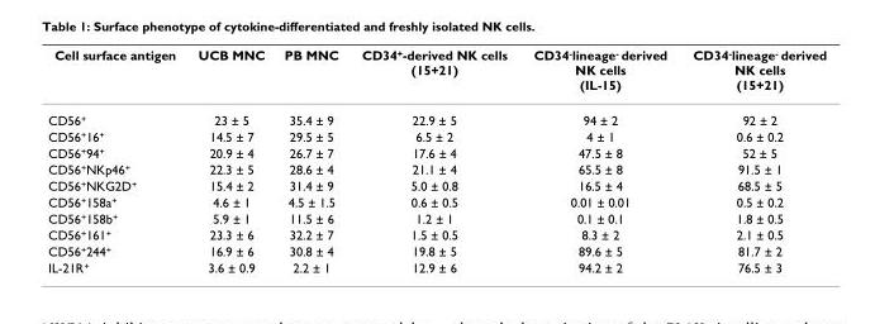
<table><thead><tr><td>Cell surface antigen</td><td>UCB MNC</td><td>PB MNC</td><td>CD34<sup>+</sup>-derived NK cells (15+21)</td><td>CD34<sup>-</sup>lineage<sup>-</sup> derived NK cells (IL-15)</td><td>CD34<sup>-</sup>lineage<sup>-</sup> derived NK cells (15+21)</td></tr></thead><tbody><tr><td>CD56<sup>+</sup></td><td>23 ± 5</td><td>35.4 ± 9</td><td>22.9 ± 5</td><td>94 ± 2</td><td>92 ± 2</td></tr><tr><td>CD56<sup>+</sup>16<sup>+</sup></td><td>14.5 ± 7</td><td>29.5 ± 5</td><td>6.5 ± 2</td><td>4 ± 1</td><td>0.6 ± 0.2</td></tr><tr><td>CD56<sup>+</sup>94<sup>+</sup></td><td>20.9 ± 4</td><td>26.7 ± 7</td><td>17.6 ± 4</td><td>47.5 ± 8</td><td>52 ± 5</td></tr><tr><td>CD56<sup>+</sup>NKp46<sup>+</sup></td><td>22.3 ± 5</td><td>28.6 ± 4</td><td>21.1 ± 4</td><td>65.5 ± 8</td><td>91.5 ± 1</td></tr><tr><td>CD56<sup>+</sup>NKG2D<sup>+</sup></td><td>15.4 ± 2</td><td>31.4 ± 9</td><td>5.0 ± 0.8</td><td>16.5 ± 4</td><td>68.5 ± 5</td></tr><tr><td>CD56<sup>+</sup>158a<sup>+</sup></td><td>4.6 ± 1</td><td>4.5 ± 1.5</td><td>0.6 ± 0.5</td><td>0.01 ± 0.01</td><td>0.5 ± 0.2</td></tr><tr><td>CD56<sup>+</sup>158b<sup>+</sup></td><td>5.9 ± 1</td><td>11.5 ± 6</td><td>1.2 ± 1</td><td>0.1 ± 0.1</td><td>1.8 ± 0.5</td></tr><tr><td>CD56<sup>+</sup>161<sup>+</sup></td><td>23.3 ± 6</td><td>32.2 ± 7</td><td>1.5 ± 0.5</td><td>8.3 ± 2</td><td>2.1 ± 0.5</td></tr><tr><td>CD56<sup>+</sup>244<sup>+</sup></td><td>16.9 ± 6</td><td>30.8 ± 4</td><td>19.8 ± 5</td><td>89.6 ± 5</td><td>81.7 ± 2</td></tr><tr><td>IL-21R<sup>+</sup></td><td>3.6 ± 0.9</td><td>2.2 ± 1</td><td>12.9 ± 6</td><td>94.2 ± 2</td><td>76.5 ± 3</td></tr></tbody></table>